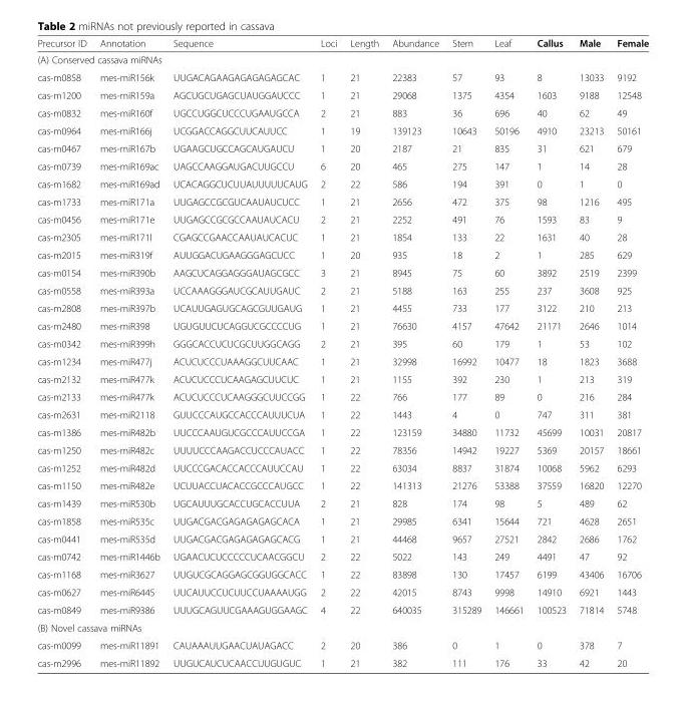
<table><thead><tr><td>Precursor ID</td><td>Annotation</td><td>Sequence</td><td>Loci</td><td>Length</td><td>Abundance</td><td>Stem</td><td>Leaf</td><td>Callus</td><td>Male</td><td>Female</td></tr></thead><tbody><tr><td colspan="11">(A) Conserved cassava miRNAs</td></tr><tr><td>cas-m0858</td><td>mes-miR156k</td><td>UUGACAGAAGAGAGAGAGCAC</td><td>1</td><td>21</td><td>22383</td><td>57</td><td>93</td><td>8</td><td>13033</td><td>9192</td></tr><tr><td>cas-m1200</td><td>mes-miR159a</td><td>AGCUGCUGAGCUAUGGAUCCC</td><td>1</td><td>21</td><td>29068</td><td>1375</td><td>4354</td><td>1603</td><td>9188</td><td>12548</td></tr><tr><td>cas-m0832</td><td>mes-miR160f</td><td>UGCCUGGCUCCCUGAAUGCCA</td><td>2</td><td>21</td><td>883</td><td>36</td><td>696</td><td>40</td><td>62</td><td>49</td></tr><tr><td>cas-m0964</td><td>mes-miR166j</td><td>UCGGACCAGGCUUCAUUCC</td><td>1</td><td>19</td><td>139123</td><td>10643</td><td>50196</td><td>4910</td><td>23213</td><td>50161</td></tr><tr><td>cas-m0467</td><td>mes-miR167b</td><td>UGAAGCUGCCAGCAUGAUCU</td><td>1</td><td>20</td><td>2187</td><td>21</td><td>835</td><td>31</td><td>621</td><td>679</td></tr><tr><td>cas-m0739</td><td>mes-miR169ac</td><td>UAGCCAAGGAUGACUUGCCU</td><td>6</td><td>20</td><td>465</td><td>275</td><td>147</td><td>1</td><td>14</td><td>28</td></tr><tr><td>cas-m1682</td><td>mes-miR169ad</td><td>UCACAGGCUCUUAUUUUUCAUG</td><td>2</td><td>22</td><td>586</td><td>194</td><td>391</td><td>0</td><td>1</td><td>0</td></tr><tr><td>cas-m1733</td><td>mes-miR171a</td><td>UUGAGCCGCGUCAAUAUCUCC</td><td>1</td><td>21</td><td>2656</td><td>472</td><td>375</td><td>98</td><td>1216</td><td>495</td></tr><tr><td>cas-m0456</td><td>mes-miR171e</td><td>UUGAGCCGCGCCAAUAUCACU</td><td>2</td><td>21</td><td>2252</td><td>491</td><td>76</td><td>1593</td><td>83</td><td>9</td></tr><tr><td>cas-m2305</td><td>mes-miR171l</td><td>CGAGCCGAACCAAUAUCACUC</td><td>1</td><td>21</td><td>1854</td><td>133</td><td>22</td><td>1631</td><td>40</td><td>28</td></tr><tr><td>cas-m2015</td><td>mes-miR319f</td><td>AUUGGACUGAAGGGAGCUCC</td><td>1</td><td>20</td><td>935</td><td>18</td><td>2</td><td>1</td><td>285</td><td>629</td></tr><tr><td>cas-m0154</td><td>mes-miR390b</td><td>AAGCUCAGGAGGGAUAGCGCC</td><td>3</td><td>21</td><td>8945</td><td>75</td><td>60</td><td>3892</td><td>2519</td><td>2399</td></tr><tr><td>cas-m0558</td><td>mes-miR393a</td><td>UCCAAAGGGAUCGCAUUGAUC</td><td>2</td><td>21</td><td>5188</td><td>163</td><td>255</td><td>237</td><td>3608</td><td>925</td></tr><tr><td>cas-m2808</td><td>mes-miR397b</td><td>UCAUUGAGUGCAGCGUUGAUG</td><td>1</td><td>21</td><td>4455</td><td>733</td><td>177</td><td>3122</td><td>210</td><td>213</td></tr><tr><td>cas-m2480</td><td>mes-miR398</td><td>UGUGUUCUCAGGUCGCCCCUG</td><td>1</td><td>21</td><td>76630</td><td>4157</td><td>47642</td><td>21171</td><td>2646</td><td>1014</td></tr><tr><td>cas-m0342</td><td>mes-miR399h</td><td>GGGCACCUCUCGCUUGGCAGG</td><td>2</td><td>21</td><td>395</td><td>60</td><td>179</td><td>1</td><td>53</td><td>102</td></tr><tr><td>cas-m1234</td><td>mes-miR477j</td><td>ACUCUCCCUAAAGGCUUCAAC</td><td>1</td><td>21</td><td>32998</td><td>16992</td><td>10477</td><td>18</td><td>1823</td><td>3688</td></tr><tr><td>cas-m2132</td><td>mes-miR477k</td><td>ACUCUCCCUCAAGAGCUUCUC</td><td>1</td><td>21</td><td>1155</td><td>392</td><td>230</td><td>1</td><td>213</td><td>319</td></tr><tr><td>cas-m2133</td><td>mes-miR477k</td><td>ACUCUCCCUCAAGGGCUUCCGG</td><td>1</td><td>22</td><td>766</td><td>177</td><td>89</td><td>0</td><td>216</td><td>284</td></tr><tr><td>cas-m2631</td><td>mes-miR2118</td><td>GUUCCCAUGCCACCCAUUUCUA</td><td>1</td><td>22</td><td>1443</td><td>4</td><td>0</td><td>747</td><td>311</td><td>381</td></tr><tr><td>cas-m1386</td><td>mes-miR482b</td><td>UUCCCAAUGUCGCCCAUUCCGA</td><td>1</td><td>22</td><td>123159</td><td>34880</td><td>11732</td><td>45699</td><td>10031</td><td>20817</td></tr><tr><td>cas-m1250</td><td>mes-miR482c</td><td>UUUUCCCAAGACCUCCCAUACC</td><td>1</td><td>22</td><td>78356</td><td>14942</td><td>19227</td><td>5369</td><td>20157</td><td>18661</td></tr><tr><td>cas-m1252</td><td>mes-miR482d</td><td>UUCCCGACACCACCCAUUCCAU</td><td>1</td><td>22</td><td>63034</td><td>8837</td><td>31874</td><td>10068</td><td>5962</td><td>6293</td></tr><tr><td>cas-m1150</td><td>mes-miR482e</td><td>UCUUACCUACACCGCCCAUGCC</td><td>1</td><td>22</td><td>141313</td><td>21276</td><td>53388</td><td>37559</td><td>16820</td><td>12270</td></tr><tr><td>cas-m1439</td><td>mes-miR530b</td><td>UGCAUUUGCACCUGCACCUUA</td><td>2</td><td>21</td><td>828</td><td>174</td><td>98</td><td>5</td><td>489</td><td>62</td></tr><tr><td>cas-m1858</td><td>mes-miR535c</td><td>UUGACGACGAGAGAGAGCACA</td><td>1</td><td>21</td><td>29985</td><td>6341</td><td>15644</td><td>721</td><td>4628</td><td>2651</td></tr><tr><td>cas-m0441</td><td>mes-miR535d</td><td>UUGACGACGAGAGAGAGCACG</td><td>1</td><td>21</td><td>44468</td><td>9657</td><td>27521</td><td>2842</td><td>2686</td><td>1762</td></tr><tr><td>cas-m0742</td><td>mes-miR1446b</td><td>UGAACUCUCCCCCUCAACGGCU</td><td>2</td><td>22</td><td>5022</td><td>143</td><td>249</td><td>4491</td><td>47</td><td>92</td></tr><tr><td>cas-m1168</td><td>mes-miR3627</td><td>UUGUCGCAGGAGCGGUGGCACC</td><td>1</td><td>22</td><td>83898</td><td>130</td><td>17457</td><td>6199</td><td>43406</td><td>16706</td></tr><tr><td>cas-m0627</td><td>mes-miR6445</td><td>UUCAUUCCUCUUCCUAAAAUGG</td><td>2</td><td>22</td><td>42015</td><td>8743</td><td>9998</td><td>14910</td><td>6921</td><td>1443</td></tr><tr><td>cas-m0849</td><td>mes-miR9386</td><td>UUUGCAGUUCGAAAGUGGAAGC</td><td>4</td><td>22</td><td>640035</td><td>315289</td><td>146661</td><td>100523</td><td>71814</td><td>5748</td></tr><tr><td colspan="11">(B) Novel cassava miRNAs</td></tr><tr><td>cas-m0099</td><td>mes-miR11891</td><td>CAUAAAUUGAACUAUAGACC</td><td>2</td><td>20</td><td>386</td><td>0</td><td>1</td><td>0</td><td>378</td><td>7</td></tr><tr><td>cas-m2996</td><td>mes-miR11892</td><td>UUGUCAUCUCAACCUUGUGUC</td><td>1</td><td>21</td><td>382</td><td>111</td><td>176</td><td>33</td><td>42</td><td>20</td></tr></tbody></table>